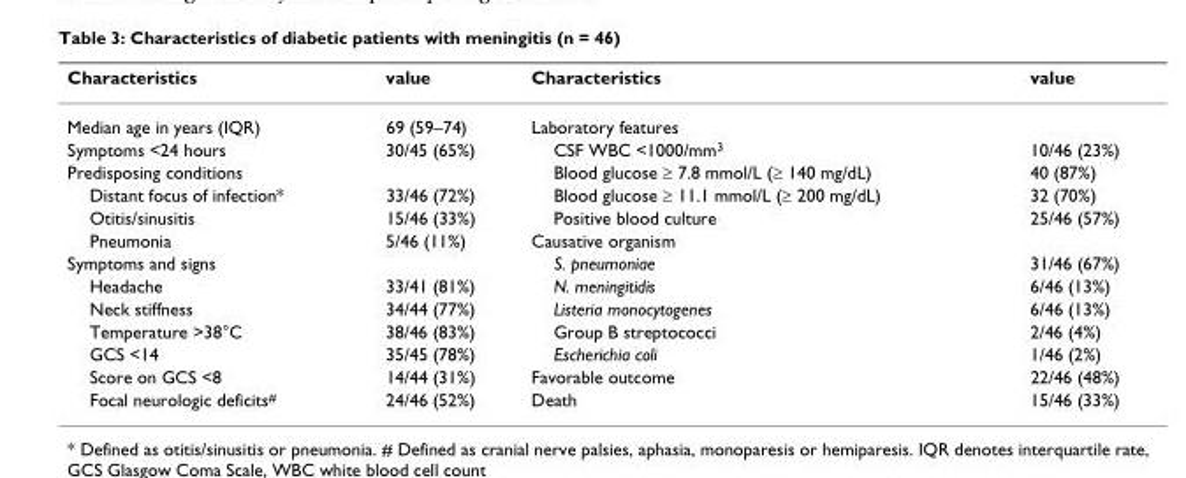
<table><thead><tr><td>Characteristics</td><td>value</td><td>Characteristics</td><td>value</td></tr></thead><tbody><tr><td>Median age in years (IQR)</td><td>69 (59–74)</td><td>Laboratory features</td><td></td></tr><tr><td>Symptoms &lt;24 hours</td><td>30/45 (65%)</td><td>CSF WBC &lt;1000/mm<sup>3</sup></td><td>10/46 (23%)</td></tr><tr><td>Predisposing conditions</td><td></td><td>Blood glucose ≥ 7.8 mmol/L (≥ 140 mg/dL)</td><td>40 (87%)</td></tr><tr><td>Distant focus of infection*</td><td>33/46 (72%)</td><td>Blood glucose ≥ 11.1 mmol/L (≥ 200 mg/dL)</td><td>32 (70%)</td></tr><tr><td>Otitis/sinusitis</td><td>15/46 (33%)</td><td>Positive blood culture</td><td>25/46 (57%)</td></tr><tr><td>Pneumonia</td><td>5/46 (11%)</td><td>Causative organism</td><td></td></tr><tr><td>Symptoms and signs</td><td></td><td>S. pneumoniae</td><td>31/46 (67%)</td></tr><tr><td>Headache</td><td>33/41 (81%)</td><td>N. meningitidis</td><td>6/46 (13%)</td></tr><tr><td>Neck stiffness</td><td>34/44 (77%)</td><td>Listeria monocytogenes</td><td>6/46 (13%)</td></tr><tr><td>Temperature &gt;38°C</td><td>38/46 (83%)</td><td>Group B streptococci</td><td>2/46 (4%)</td></tr><tr><td>GCS &lt;14</td><td>35/45 (78%)</td><td>Escherichia coli</td><td>1/46 (2%)</td></tr><tr><td>Score on GCS &lt;8</td><td>14/44 (31%)</td><td>Favorable outcome</td><td>22/46 (48%)</td></tr><tr><td>Focal neurologic deficits<sup>#</sup></td><td>24/46 (52%)</td><td>Death</td><td>15/46 (33%)</td></tr></tbody></table>